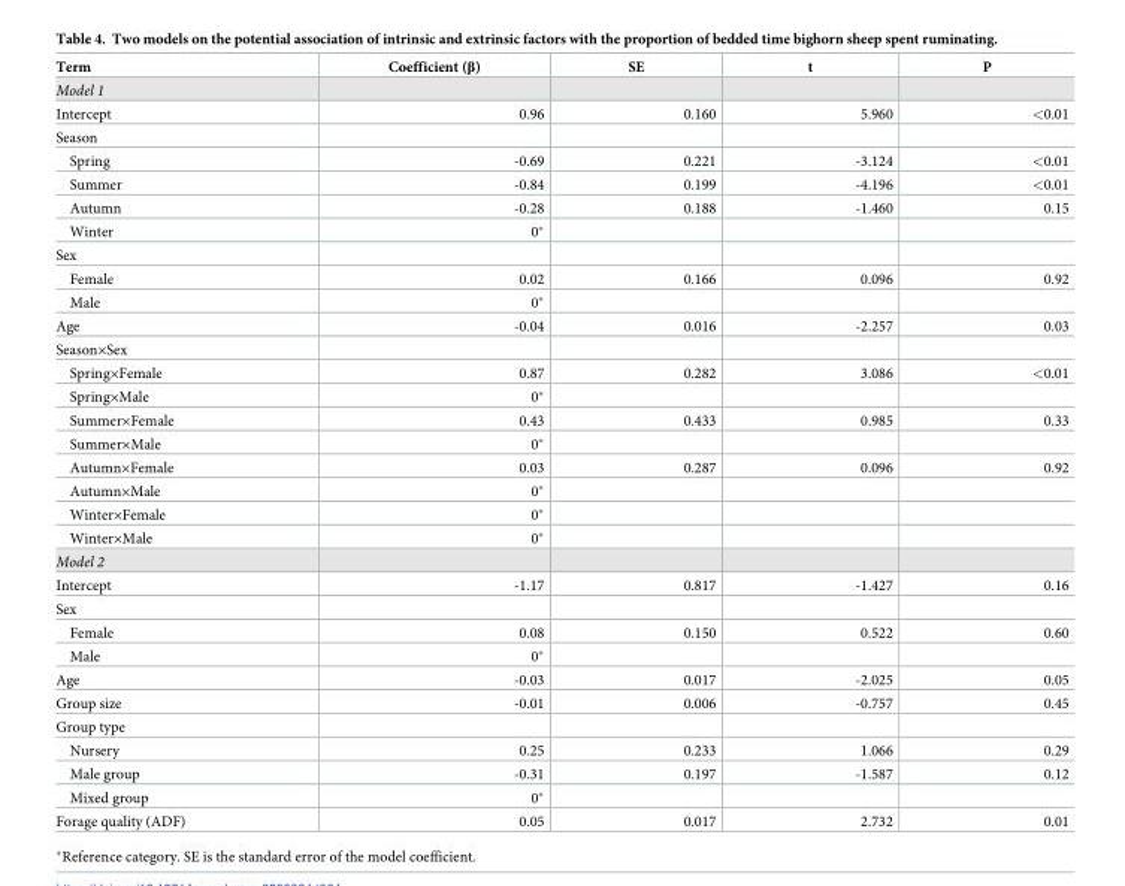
<table><thead><tr><td>Term</td><td>Coefficient (β)</td><td>SE</td><td>t</td><td>P</td></tr></thead><tbody><tr><td colspan="5">Model 1</td></tr><tr><td>Intercept</td><td>0.96</td><td>0.160</td><td>5.960</td><td>&lt;0.01</td></tr><tr><td colspan="5">Season</td></tr><tr><td>Spring</td><td>-0.69</td><td>0.221</td><td>-3.124</td><td>&lt;0.01</td></tr><tr><td>Summer</td><td>-0.84</td><td>0.199</td><td>-4.196</td><td>&lt;0.01</td></tr><tr><td>Autumn</td><td>-0.28</td><td>0.188</td><td>-1.460</td><td>0.15</td></tr><tr><td>Winter</td><td>0*</td><td></td><td></td><td></td></tr><tr><td colspan="5">Sex</td></tr><tr><td>Female</td><td>0.02</td><td>0.166</td><td>0.096</td><td>0.92</td></tr><tr><td>Male</td><td>0*</td><td></td><td></td><td></td></tr><tr><td>Age</td><td>-0.04</td><td>0.016</td><td>-2.257</td><td>0.03</td></tr><tr><td colspan="5">Season×Sex</td></tr><tr><td>Spring×Female</td><td>0.87</td><td>0.282</td><td>3.086</td><td>&lt;0.01</td></tr><tr><td>Spring×Male</td><td>0*</td><td></td><td></td><td></td></tr><tr><td>Summer×Female</td><td>0.43</td><td>0.433</td><td>0.985</td><td>0.33</td></tr><tr><td>Summer×Male</td><td>0*</td><td></td><td></td><td></td></tr><tr><td>Autumn×Female</td><td>0.03</td><td>0.287</td><td>0.096</td><td>0.92</td></tr><tr><td>Autumn×Male</td><td>0*</td><td></td><td></td><td></td></tr><tr><td>Winter×Female</td><td>0*</td><td></td><td></td><td></td></tr><tr><td>Winter×Male</td><td>0*</td><td></td><td></td><td></td></tr><tr><td colspan="5">Model 2</td></tr><tr><td>Intercept</td><td>-1.17</td><td>0.817</td><td>-1.427</td><td>0.16</td></tr><tr><td colspan="5">Sex</td></tr><tr><td>Female</td><td>0.08</td><td>0.150</td><td>0.522</td><td>0.60</td></tr><tr><td>Male</td><td>0*</td><td></td><td></td><td></td></tr><tr><td>Age</td><td>-0.03</td><td>0.017</td><td>-2.025</td><td>0.05</td></tr><tr><td>Group size</td><td>-0.01</td><td>0.006</td><td>-0.757</td><td>0.45</td></tr><tr><td colspan="5">Group type</td></tr><tr><td>Nursery</td><td>0.25</td><td>0.233</td><td>1.066</td><td>0.29</td></tr><tr><td>Male group</td><td>-0.31</td><td>0.197</td><td>-1.587</td><td>0.12</td></tr><tr><td>Mixed group</td><td>0*</td><td></td><td></td><td></td></tr><tr><td>Forage quality (ADF)</td><td>0.05</td><td>0.017</td><td>2.732</td><td>0.01</td></tr></tbody></table>